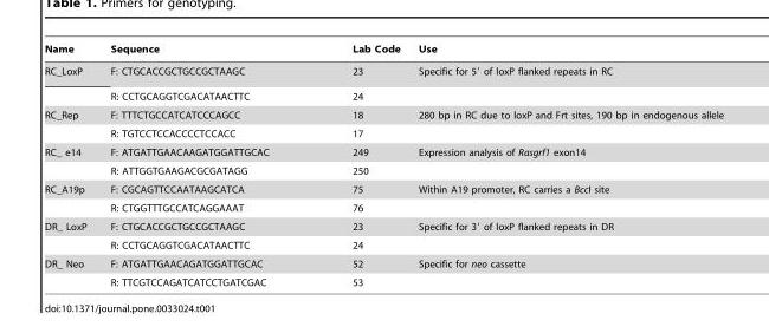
<table><thead><tr><td>Name</td><td>Sequence</td><td>Lab Code</td><td>Use</td></tr></thead><tbody><tr><td rowspan="2">RC_LoxP</td><td>F: CTGCACCGCTGCCGCTAAGC</td><td>23</td><td>Specific for 5′ of loxP flanked repeats in RC</td></tr><tr><td>R: CCTGCAGGTCGACATAACTTC</td><td>24</td><td></td></tr><tr><td rowspan="2">RC_Rep</td><td>F: TTTCTGCCATCATCCCAGCC</td><td>18</td><td>280 bp in RC due to loxP and Frt sites, 190 bp in endogenous allele</td></tr><tr><td>R: TGTCCTCCACCCCTCCACC</td><td>17</td><td></td></tr><tr><td rowspan="2">RC_ e14</td><td>F: ATGATTGAACAAGATGGATTGCAC</td><td>249</td><td>Expression analysis of Rasgrf1 exon14</td></tr><tr><td>R: ATTGGTGAAGACGCGATAGG</td><td>250</td><td></td></tr><tr><td rowspan="2">RC_A19p</td><td>F: CGCAGTTCCAATAAGCATCA</td><td>75</td><td>Within A19 promoter, RC carries a BccI site</td></tr><tr><td>R: CTGGTTTGCCATCAGGAAAT</td><td>76</td><td></td></tr><tr><td rowspan="2">DR_ LoxP</td><td>F: CTGCACCGCTGCCGCTAAGC</td><td>23</td><td>Specific for 3′ of loxP flanked repeats in DR</td></tr><tr><td>R: CCTGCAGGTCGACATAACTTC</td><td>24</td><td></td></tr><tr><td rowspan="2">DR_ Neo</td><td>F: ATGATTGAACAGATGGATTGCAC</td><td>52</td><td>Specific for neo cassette</td></tr><tr><td>R: TTCGTCCAGATCATCCTGATCGAC</td><td>53</td><td></td></tr></tbody></table>